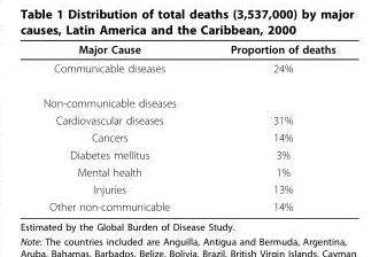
<table><thead><tr><td>Major Cause</td><td>Proportion of deaths</td></tr></thead><tbody><tr><td>Communicable diseases</td><td>24%</td></tr><tr><td colspan="2">Non-communicable diseases</td></tr><tr><td>Cardiovascular diseases</td><td>31%</td></tr><tr><td>Cancers</td><td>14%</td></tr><tr><td>Diabetes mellitus</td><td>3%</td></tr><tr><td>Mental health</td><td>1%</td></tr><tr><td>Injuries</td><td>13%</td></tr><tr><td>Other non-communicable</td><td>14%</td></tr></tbody></table>